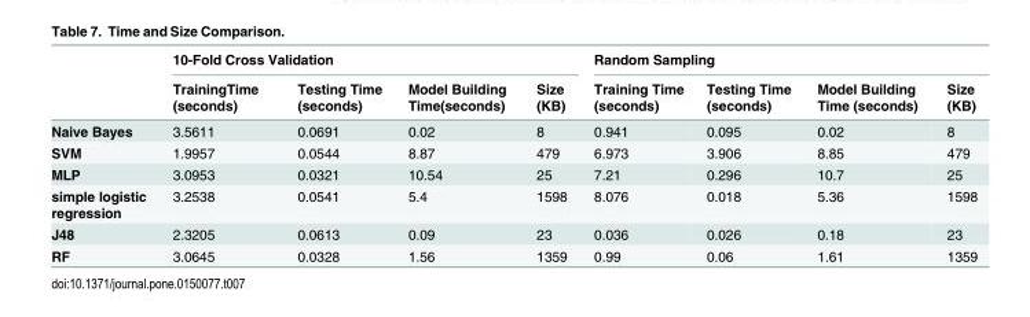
<table><thead><tr><td rowspan="2"></td><td colspan="4">10-Fold Cross Validation</td><td colspan="4">Random Sampling</td></tr><tr><td>TrainingTime (seconds)</td><td>Testing Time (seconds)</td><td>Model Building Time(seconds)</td><td>Size (KB)</td><td>Training Time (seconds)</td><td>Testing Time (seconds)</td><td>Model Building Time (seconds)</td><td>Size (KB)</td></tr></thead><tbody><tr><td>Naive Bayes</td><td>3.5611</td><td>0.0691</td><td>0.02</td><td>8</td><td>0.941</td><td>0.095</td><td>0.02</td><td>8</td></tr><tr><td>SVM</td><td>1.9957</td><td>0.0544</td><td>8.87</td><td>479</td><td>6.973</td><td>3.906</td><td>8.85</td><td>479</td></tr><tr><td>MLP</td><td>3.0953</td><td>0.0321</td><td>10.54</td><td>25</td><td>7.21</td><td>0.296</td><td>10.7</td><td>25</td></tr><tr><td>simple logistic regression</td><td>3.2538</td><td>0.0541</td><td>5.4</td><td>1598</td><td>8.076</td><td>0.018</td><td>5.36</td><td>1598</td></tr><tr><td>J48</td><td>2.3205</td><td>0.0613</td><td>0.09</td><td>23</td><td>0.036</td><td>0.026</td><td>0.18</td><td>23</td></tr><tr><td>RF</td><td>3.0645</td><td>0.0328</td><td>1.56</td><td>1359</td><td>0.99</td><td>0.06</td><td>1.61</td><td>1359</td></tr></tbody></table>